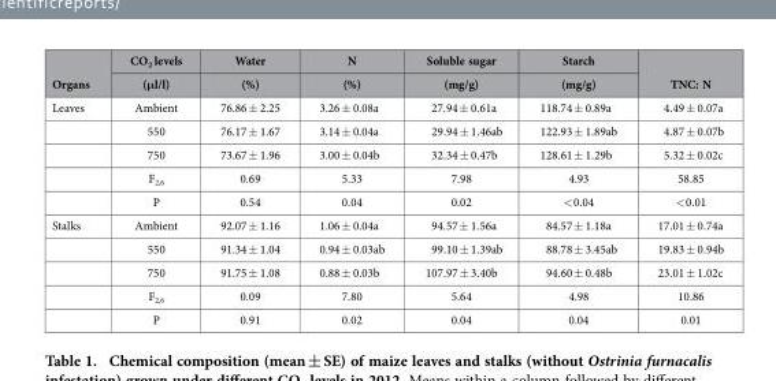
<table><thead><tr><td rowspan="2">Organs</td><td rowspan="2">CO<sub>2</sub> levels (μl/l)</td><td rowspan="2">Water (%)</td><td rowspan="2">N (%)</td><td rowspan="2">Soluble sugar (mg/g)</td><td rowspan="2">Starch (mg/g)</td><td rowspan="2">TNC: N</td></tr><tr></tr></thead><tbody><tr><td rowspan="5">Leaves</td><td>Ambient</td><td>76.86 ± 2.25</td><td>3.26 ± 0.08a</td><td>27.94 ± 0.61a</td><td>118.74 ± 0.89a</td><td>4.49 ± 0.07a</td></tr><tr><td>550</td><td>76.17 ± 1.67</td><td>3.14 ± 0.04a</td><td>29.94 ± 1.46ab</td><td>122.93 ± 1.89ab</td><td>4.87 ± 0.07b</td></tr><tr><td>750</td><td>73.67 ± 1.96</td><td>3.00 ± 0.04b</td><td>32.34 ± 0.47b</td><td>128.61 ± 1.29b</td><td>5.32 ± 0.02c</td></tr><tr><td>F<sub>2,6</sub></td><td>0.69</td><td>5.33</td><td>7.98</td><td>4.93</td><td>58.85</td></tr><tr><td>P</td><td>0.54</td><td>0.04</td><td>0.02</td><td>&lt; 0.04</td><td>&lt; 0.01</td></tr><tr><td rowspan="5">Stalks</td><td>Ambient</td><td>92.07 ± 1.16</td><td>1.06 ± 0.04a</td><td>94.57 ± 1.56a</td><td>84.57 ± 1.18a</td><td>17.01 ± 0.74a</td></tr><tr><td>550</td><td>91.34 ± 1.04</td><td>0.94 ± 0.03ab</td><td>99.10 ± 1.39ab</td><td>88.78 ± 3.45ab</td><td>19.83 ± 0.94b</td></tr><tr><td>750</td><td>91.75 ± 1.08</td><td>0.88 ± 0.03b</td><td>107.97 ± 3.40b</td><td>94.60 ± 0.48b</td><td>23.01 ± 1.02c</td></tr><tr><td>F<sub>2,6</sub></td><td>0.09</td><td>7.80</td><td>5.64</td><td>4.98</td><td>10.86</td></tr><tr><td>P</td><td>0.91</td><td>0.02</td><td>0.04</td><td>0.04</td><td>0.01</td></tr></tbody></table>